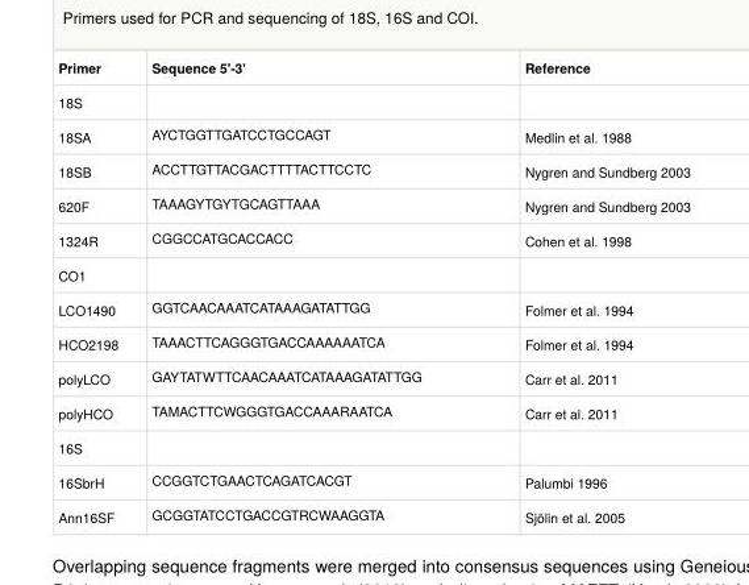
<table><thead><tr><td>Primer</td><td>Sequence 5&#x27;-3&#x27;</td><td>Reference</td></tr></thead><tbody><tr><td colspan="3">18S</td></tr><tr><td>18SA</td><td>AYCTGGTTGATCCTGCCAGT</td><td>Medlin et al. 1988</td></tr><tr><td>18SB</td><td>ACCTTGTTACGACTTTTACTTCCTC</td><td>Nygren and Sundberg 2003</td></tr><tr><td>620F</td><td>TAAAGYTGYTGCAGTTAAA</td><td>Nygren and Sundberg 2003</td></tr><tr><td>1324R</td><td>CGGCCATGCACCACC</td><td>Cohen et al. 1998</td></tr><tr><td colspan="3">CO1</td></tr><tr><td>LCO1490</td><td>GGTCAACAAATCATAAAGATATTGG</td><td>Folmer et al. 1994</td></tr><tr><td>HCO2198</td><td>TAAACTTCAGGGTGACCAAAAAATCA</td><td>Folmer et al. 1994</td></tr><tr><td>polyLCO</td><td>GAYTATWTTCAACAAATCATAAAGATATTGG</td><td>Carr et al. 2011</td></tr><tr><td>polyHCO</td><td>TAMACTTCWGGGTGACCAAARAATCA</td><td>Carr et al. 2011</td></tr><tr><td colspan="3">16S</td></tr><tr><td>16SbrH</td><td>CCGGTCTGAACTCAGATCACGT</td><td>Palumbi 1996</td></tr><tr><td>Ann16SF</td><td>GCGGTATCCTGACCGTRCWAAGGTA</td><td>Sjölin et al. 2005</td></tr></tbody></table>